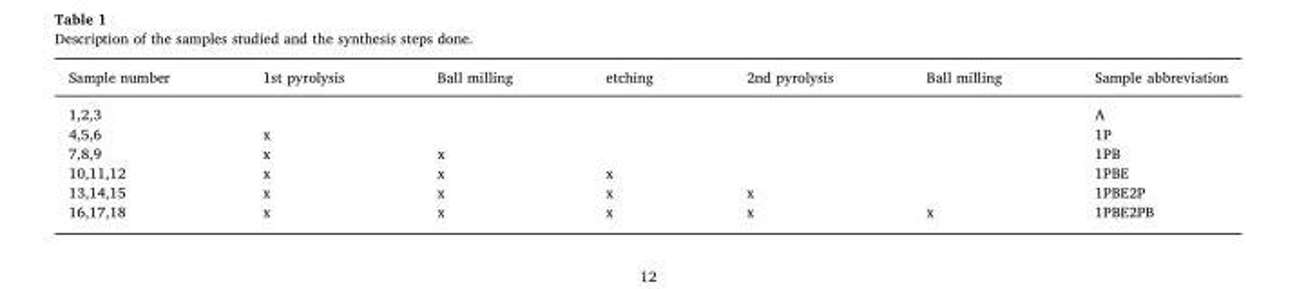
<table><thead><tr><td>Sample number</td><td>1st pyrolysis</td><td>Ball milling</td><td>etching</td><td>2nd pyrolysis</td><td>Ball milling</td><td>Sample abbreviation</td></tr></thead><tbody><tr><td>1,2,3</td><td></td><td></td><td></td><td></td><td></td><td>A</td></tr><tr><td>4,5,6</td><td>x</td><td></td><td></td><td></td><td></td><td>1P</td></tr><tr><td>7,8,9</td><td>x</td><td>x</td><td></td><td></td><td></td><td>1PB</td></tr><tr><td>10,11,12</td><td>x</td><td>x</td><td>x</td><td></td><td></td><td>1PBE</td></tr><tr><td>13,14,15</td><td>x</td><td>x</td><td>x</td><td>x</td><td></td><td>1PBE2P</td></tr><tr><td>16,17,18</td><td>x</td><td>x</td><td>x</td><td>x</td><td>x</td><td>1PBE2PB</td></tr></tbody></table>